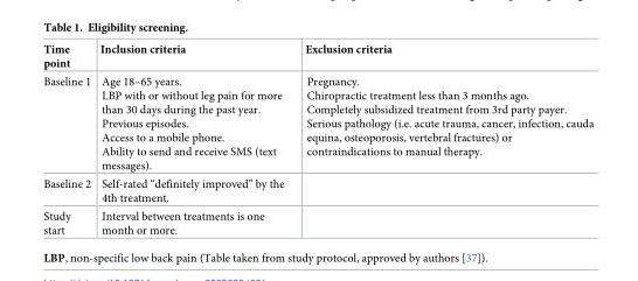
<table><thead><tr><td>Time point</td><td>Inclusion criteria</td><td>Exclusion criteria</td></tr></thead><tbody><tr><td>Baseline 1</td><td>Age 18–65 years. LBP with or without leg pain for more than 30 days during the past year. Previous episodes. Access to a mobile phone. Ability to send and receive SMS (text messages).</td><td>Pregnancy. Chiropractic treatment less than 3 months ago. Completely subsidized treatment from 3rd party payer. Serious pathology (i.e. acute trauma, cancer, infection, cauda equina, osteoporosis, vertebral fractures) or contraindications to manual therapy.</td></tr><tr><td>Baseline 2</td><td>Self-rated “definitely improved” by the 4th treatment.</td><td></td></tr><tr><td>Study start</td><td>Interval between treatments is one month or more.</td><td></td></tr></tbody></table>